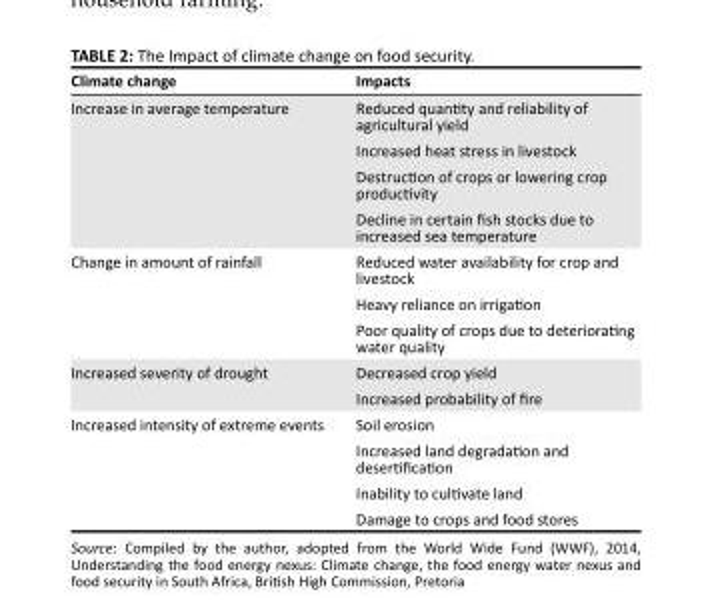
<table><thead><tr><td>Climate change</td><td>Impacts</td></tr></thead><tbody><tr><td rowspan="4">Increase in average temperature</td><td>Reduced quantity and reliability of agricultural yield</td></tr><tr><td>Increased heat stress in livestock</td></tr><tr><td>Destruction of crops or lowering crop productivity</td></tr><tr><td>Decline in certain fish stocks due to increased sea temperature</td></tr><tr><td rowspan="3">Change in amount of rainfall</td><td>Reduced water availability for crop and livestock</td></tr><tr><td>Heavy reliance on irrigation</td></tr><tr><td>Poor quality of crops due to deteriorating water quality</td></tr><tr><td rowspan="2">Increased severity of drought</td><td>Decreased crop yield</td></tr><tr><td>Increased probability of fire</td></tr><tr><td rowspan="4">Increased intensity of extreme events</td><td>Soil erosion</td></tr><tr><td>Increased land degradation and desertification</td></tr><tr><td>Inability to cultivate land</td></tr><tr><td>Damage to crops and food stores</td></tr></tbody></table>